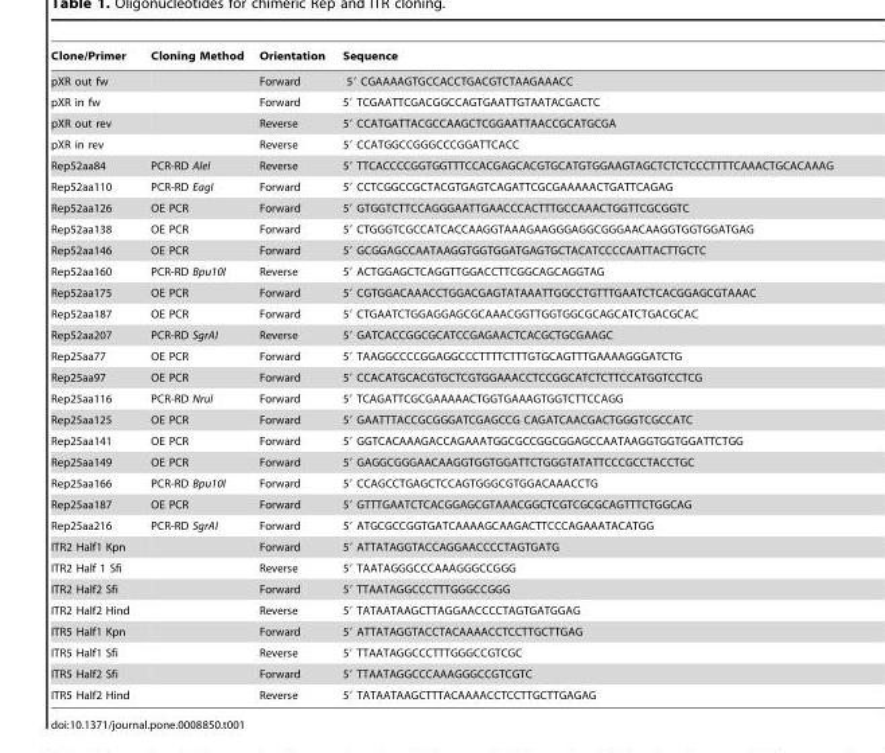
<table><thead><tr><td>Clone/Primer</td><td>Cloning Method</td><td>Orientation</td><td>Sequence</td></tr></thead><tbody><tr><td>pXR out fw</td><td></td><td>Forward</td><td>5′ CGAAAAGTGCCACCTGACGTCTAAGAAACC</td></tr><tr><td>pXR in fw</td><td></td><td>Forward</td><td>5′ TCGAATTCGACGGCCAGTGAATTGTAATACGACTC</td></tr><tr><td>pXR out rev</td><td></td><td>Reverse</td><td>5′ CCATGATTACGCCAAGCTCGGAATTAACCGCATGCGA</td></tr><tr><td>pXR in rev</td><td></td><td>Reverse</td><td>5′ CCATGGCCGGGCCCGGATTCACC</td></tr><tr><td>Rep52aa84</td><td>PCR-RD AleI</td><td>Reverse</td><td>5′ TTCACCCCGGTGGTTTCCACGAGCACGTGCATGTGGAAGTAGCTCTCTCCCTTTTCAAACTGCACAAAG</td></tr><tr><td>Rep52aa110</td><td>PCR-RD EagI</td><td>Forward</td><td>5′ CCTCGGCCGCTACGTGAGTCAGATTCGCGAAAAACTGATTCAGAG</td></tr><tr><td>Rep52aa126</td><td>OE PCR</td><td>Forward</td><td>5′ GTGGTCTTCCAGGGAATTGAACCCACTTTGCCAAACTGGTTCGCGGTC</td></tr><tr><td>Rep52aa138</td><td>OE PCR</td><td>Forward</td><td>5′ CTGGGTCGCCATCACCAAGGTAAAGAAGGGAGGCGGGAACAAGGTGGTGGATGAG</td></tr><tr><td>Rep52aa146</td><td>OE PCR</td><td>Forward</td><td>5′ GCGGAGCCAATAAGGTGGTGGATGAGTGCTACATCCCCAATTACTTGCTC</td></tr><tr><td>Rep52aa160</td><td>PCR-RD Bpu10I</td><td>Reverse</td><td>5′ ACTGGAGCTCAGGTTGGACCTTCGGCAGCAGGTAG</td></tr><tr><td>Rep52aa175</td><td>OE PCR</td><td>Forward</td><td>5′ CGTGGACAAACCTGGACGAGTATAAATTGGCCTGTTTGAATCTCACGGAGCGTAAAC</td></tr><tr><td>Rep52aa187</td><td>OE PCR</td><td>Forward</td><td>5′ CTGAATCTGGAGGAGCGCAAACGGTTGGTGGCGCAGCATCTGACGCAC</td></tr><tr><td>Rep52aa207</td><td>PCR-RD SgrAI</td><td>Reverse</td><td>5′ GATCACCGGCGCATCCGAGAACTCACGCTGCGAAGC</td></tr><tr><td>Rep25aa77</td><td>OE PCR</td><td>Forward</td><td>5′ TAAGGCCCCGGAGGCCCTTTTCTTTGTGCAGTTTGAAAAGGGATCTG</td></tr><tr><td>Rep25aa97</td><td>OE PCR</td><td>Forward</td><td>5′ CCACATGCACGTGCTCGTGGAAACCTCCGGCATCTCTTCCATGGTCCTCG</td></tr><tr><td>Rep25aa116</td><td>PCR-RD NruI</td><td>Forward</td><td>5′ TCAGATTCGCGAAAAACTGGTGAAAGTGGTCTTCCAGG</td></tr><tr><td>Rep25aa125</td><td>OE PCR</td><td>Forward</td><td>5′ GAATTTACCGCGGGATCGAGCCG CAGATCAACGACTGGGTCGCCATC</td></tr><tr><td>Rep25aa141</td><td>OE PCR</td><td>Forward</td><td>5′ GGTCACAAAGACCAGAAATGGCGCCGGCGGAGCCAATAAGGTGGTGGATTCTGG</td></tr><tr><td>Rep25aa149</td><td>OE PCR</td><td>Forward</td><td>5′ GAGGCGGGAACAAGGTGGTGGATTCTGGGTATATTCCCGCCTACCTGC</td></tr><tr><td>Rep25aa166</td><td>PCR-RD Bpu10I</td><td>Forward</td><td>5′ CCAGCCTGAGCTCCAGTGGGCGTGGACAAACCTG</td></tr><tr><td>Rep25aa187</td><td>OE PCR</td><td>Forward</td><td>5′ GTTTGAATCTCACGGAGCGTAAACGGCTCGTCGCGCAGTTTCTGGCAG</td></tr><tr><td>Rep25aa216</td><td>PCR-RD SgrAI</td><td>Forward</td><td>5′ ATGCGCCGGTGATCAAAAGCAAGACTTCCCAGAAATACATGG</td></tr><tr><td>ITR2 Half1 Kpn</td><td></td><td>Forward</td><td>5′ ATTATAGGTACCAGGAACCCCTAGTGATG</td></tr><tr><td>ITR2 Half 1 Sfi</td><td></td><td>Reverse</td><td>5′ TAATAGGGCCCAAAGGGCCGGG</td></tr><tr><td>ITR2 Half2 Sfi</td><td></td><td>Forward</td><td>5′ TTAATAGGCCCTTTGGGCCGGG</td></tr><tr><td>ITR2 Half2 Hind</td><td></td><td>Reverse</td><td>5′ TATAATAAGCTTAGGAACCCCTAGTGATGGAG</td></tr><tr><td>ITR5 Half1 Kpn</td><td></td><td>Forward</td><td>5′ ATTATAGGTACCTACAAAACCTCCTTGCTTGAG</td></tr><tr><td>ITR5 Half1 Sfi</td><td></td><td>Reverse</td><td>5′ TTAATAGGCCCTTTGGGCCGTCGC</td></tr><tr><td>ITR5 Half2 Sfi</td><td></td><td>Forward</td><td>5′ TTAATAGGCCCAAAGGGCCGTCGTC</td></tr><tr><td>ITR5 Half2 Hind</td><td></td><td>Reverse</td><td>5′ TATAATAAGCTTTACAAAACCTCCTTGCTTGAGAG</td></tr></tbody></table>